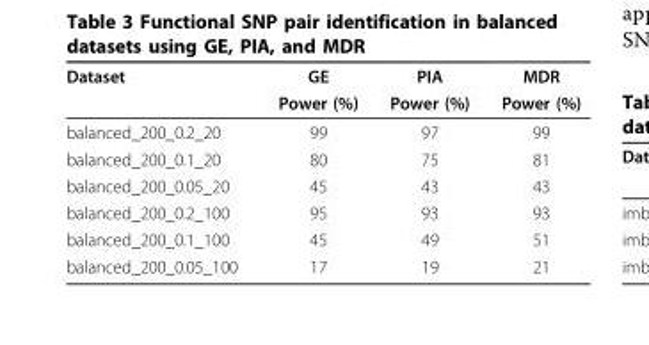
<table><thead><tr><td rowspan="2">Dataset</td><td rowspan="2">GE Power (%)</td><td rowspan="2">PIA Power (%)</td><td rowspan="2">MDR Power (%)</td></tr><tr></tr></thead><tbody><tr><td>balanced_200_0.2_20</td><td>99</td><td>97</td><td>99</td></tr><tr><td>balanced_200_0.1_20</td><td>80</td><td>75</td><td>81</td></tr><tr><td>balanced_200_0.05_20</td><td>45</td><td>43</td><td>43</td></tr><tr><td>balanced_200_0.2_100</td><td>95</td><td>93</td><td>93</td></tr><tr><td>balanced_200_0.1_100</td><td>45</td><td>49</td><td>51</td></tr><tr><td>balanced_200_0.05_100</td><td>17</td><td>19</td><td>21</td></tr></tbody></table>